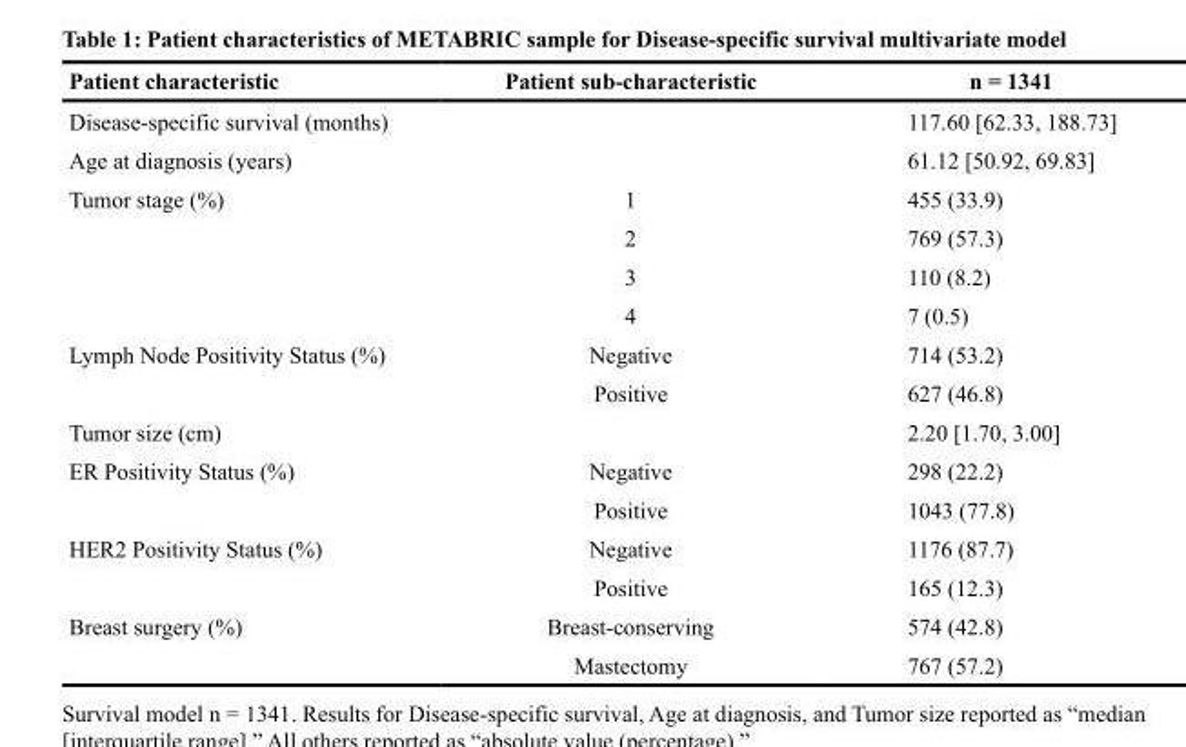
<table><thead><tr><td>Patient characteristic</td><td>Patient sub-characteristic</td><td>n = 1341</td></tr></thead><tbody><tr><td>Disease-specific survival (months)</td><td></td><td>117.60 [62.33, 188.73]</td></tr><tr><td>Age at diagnosis (years)</td><td></td><td>61.12 [50.92, 69.83]</td></tr><tr><td rowspan="4">Tumor stage (%)</td><td>1</td><td>455 (33.9)</td></tr><tr><td>2</td><td>769 (57.3)</td></tr><tr><td>3</td><td>110 (8.2)</td></tr><tr><td>4</td><td>7 (0.5)</td></tr><tr><td rowspan="2">Lymph Node Positivity Status (%)</td><td>Negative</td><td>714 (53.2)</td></tr><tr><td>Positive</td><td>627 (46.8)</td></tr><tr><td>Tumor size (cm)</td><td></td><td>2.20 [1.70, 3.00]</td></tr><tr><td rowspan="2">ER Positivity Status (%)</td><td>Negative</td><td>298 (22.2)</td></tr><tr><td>Positive</td><td>1043 (77.8)</td></tr><tr><td rowspan="2">HER2 Positivity Status (%)</td><td>Negative</td><td>1176 (87.7)</td></tr><tr><td>Positive</td><td>165 (12.3)</td></tr><tr><td rowspan="2">Breast surgery (%)</td><td>Breast-conserving</td><td>574 (42.8)</td></tr><tr><td>Mastectomy</td><td>767 (57.2)</td></tr></tbody></table>